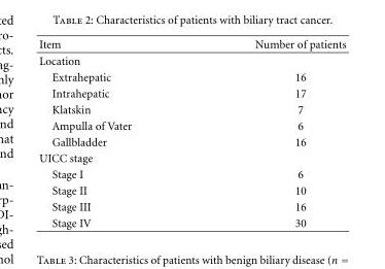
<table><thead><tr><td>Item</td><td>Number of patients</td></tr></thead><tbody><tr><td colspan="2">Location</td></tr><tr><td>Extrahepatic</td><td>16</td></tr><tr><td>Intrahepatic</td><td>17</td></tr><tr><td>Klatskin</td><td>7</td></tr><tr><td>Ampulla of Vater</td><td>6</td></tr><tr><td>Gallbladder</td><td>16</td></tr><tr><td colspan="2">UICC stage</td></tr><tr><td>Stage I</td><td>6</td></tr><tr><td>Stage II</td><td>10</td></tr><tr><td>Stage III</td><td>16</td></tr><tr><td>Stage IV</td><td>30</td></tr></tbody></table>